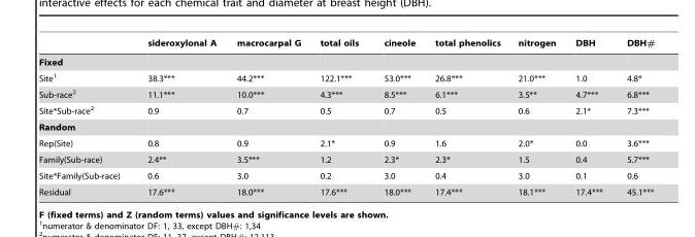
<table><thead><tr><td></td><td>sideroxylonal A</td><td>macrocarpal G</td><td>total oils</td><td>cineole</td><td>total phenolics</td><td>nitrogen</td><td>DBH</td><td>DBH#</td></tr></thead><tbody><tr><td colspan="9">Fixed</td></tr><tr><td>Site<sup>1</sup></td><td>38.3***</td><td>44.2***</td><td>122.1***</td><td>53.0***</td><td>26.8***</td><td>21.0***</td><td>1.0</td><td>4.8*</td></tr><tr><td>Sub-race<sup>2</sup></td><td>11.1***</td><td>10.0***</td><td>4.3***</td><td>8.5***</td><td>6.1***</td><td>3.5**</td><td>4.7***</td><td>6.8***</td></tr><tr><td>Site*Sub-race<sup>2</sup></td><td>0.9</td><td>0.7</td><td>0.5</td><td>0.7</td><td>0.5</td><td>0.6</td><td>2.1*</td><td>7.3***</td></tr><tr><td colspan="9">Random</td></tr><tr><td>Rep(Site)</td><td>0.8</td><td>0.9</td><td>2.1*</td><td>0.9</td><td>1.6</td><td>2.0*</td><td>0.0</td><td>3.6***</td></tr><tr><td>Family(Sub-race)</td><td>2.4**</td><td>3.5***</td><td>1.2</td><td>2.3*</td><td>2.3*</td><td>1.5</td><td>0.4</td><td>5.7***</td></tr><tr><td>Site*Family(Sub-race)</td><td>0.6</td><td>3.0</td><td>0.2</td><td>3.0</td><td>0.4</td><td>3.0</td><td>0.1</td><td>0.6</td></tr><tr><td>Residual</td><td>17.6***</td><td>18.0***</td><td>17.6***</td><td>18.0***</td><td>17.4***</td><td>18.1***</td><td>17.4***</td><td>45.1***</td></tr></tbody></table>